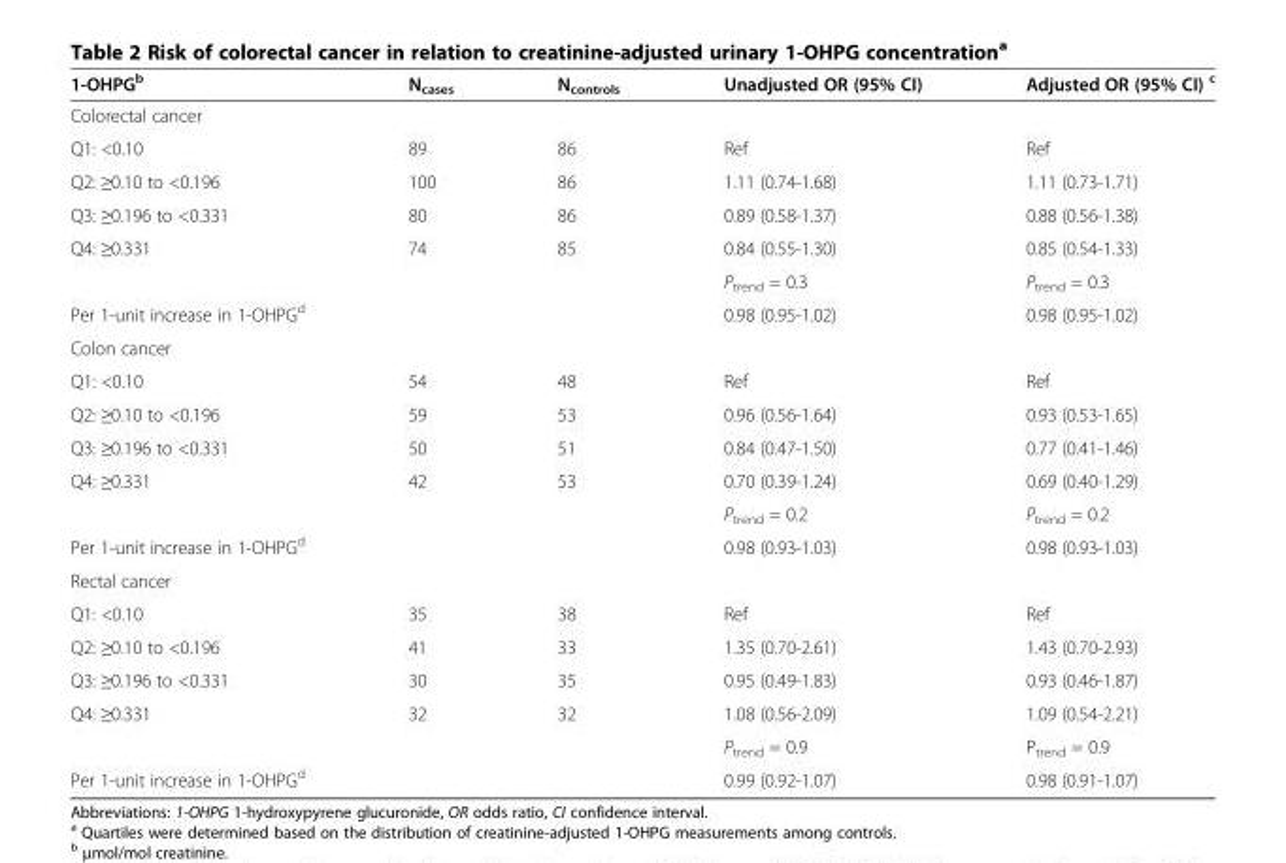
<table><thead><tr><td>1-OHPG<sup>b</sup></td><td>N<sub>cases</sub></td><td>N<sub>controls</sub></td><td>Unadjusted OR (95% CI)</td><td>Adjusted OR (95% CI) <sup>c</sup></td></tr></thead><tbody><tr><td colspan="5">Colorectal cancer</td></tr><tr><td>Q1: &lt;0.10</td><td>89</td><td>86</td><td>Ref</td><td>Ref</td></tr><tr><td>Q2: ≥0.10 to &lt;0.196</td><td>100</td><td>86</td><td>1.11 (0.74-1.68)</td><td>1.11 (0.73-1.71)</td></tr><tr><td>Q3: ≥0.196 to &lt;0.331</td><td>80</td><td>86</td><td>0.89 (0.58-1.37)</td><td>0.88 (0.56-1.38)</td></tr><tr><td rowspan="2">Q4: ≥0.331</td><td>74</td><td>85</td><td>0.84 (0.55-1.30)</td><td>0.85 (0.54-1.33)</td></tr><tr><td></td><td></td><td>P<sub>trend</sub> = 0.3</td><td>P<sub>trend</sub> = 0.3</td></tr><tr><td>Per 1-unit increase in 1-OHPG<sup>d</sup></td><td></td><td></td><td>0.98 (0.95-1.02)</td><td>0.98 (0.95-1.02)</td></tr><tr><td colspan="5">Colon cancer</td></tr><tr><td>Q1: &lt;0.10</td><td>54</td><td>48</td><td>Ref</td><td>Ref</td></tr><tr><td>Q2: ≥0.10 to &lt;0.196</td><td>59</td><td>53</td><td>0.96 (0.56-1.64)</td><td>0.93 (0.53-1.65)</td></tr><tr><td>Q3: ≥0.196 to &lt;0.331</td><td>50</td><td>51</td><td>0.84 (0.47-1.50)</td><td>0.77 (0.41-1.46)</td></tr><tr><td rowspan="2">Q4: ≥0.331</td><td>42</td><td>53</td><td>0.70 (0.39-1.24)</td><td>0.69 (0.40-1.29)</td></tr><tr><td></td><td></td><td>P<sub>trend</sub> = 0.2</td><td>P<sub>trend</sub> = 0.2</td></tr><tr><td>Per 1-unit increase in 1-OHPG<sup>d</sup></td><td></td><td></td><td>0.98 (0.93-1.03)</td><td>0.98 (0.93-1.03)</td></tr><tr><td colspan="5">Rectal cancer</td></tr><tr><td>Q1: &lt;0.10</td><td>35</td><td>38</td><td>Ref</td><td>Ref</td></tr><tr><td>Q2: ≥0.10 to &lt;0.196</td><td>41</td><td>33</td><td>1.35 (0.70-2.61)</td><td>1.43 (0.70-2.93)</td></tr><tr><td>Q3: ≥0.196 to &lt;0.331</td><td>30</td><td>35</td><td>0.95 (0.49-1.83)</td><td>0.93 (0.46-1.87)</td></tr><tr><td rowspan="2">Q4: ≥0.331</td><td>32</td><td>32</td><td>1.08 (0.56-2.09)</td><td>1.09 (0.54-2.21)</td></tr><tr><td></td><td></td><td>P<sub>trend</sub> = 0.9</td><td>P<sub>trend</sub> = 0.9</td></tr><tr><td>Per 1-unit increase in 1-OHPG<sup>d</sup></td><td></td><td></td><td>0.99 (0.92-1.07)</td><td>0.98 (0.91-1.07)</td></tr></tbody></table>